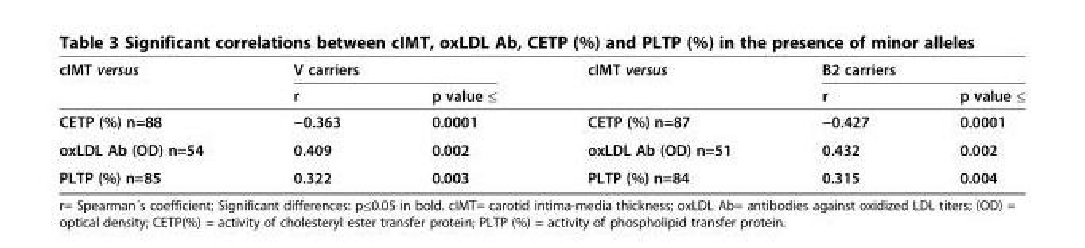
<table><thead><tr><td rowspan="2">cIMT versus</td><td colspan="2">V carriers</td><td rowspan="2">cIMT versus</td><td colspan="2">B2 carriers</td></tr><tr><td>r</td><td>p value ≤</td><td>r</td><td>p value ≤</td></tr></thead><tbody><tr><td>CETP (%) n=88</td><td>−0.363</td><td>0.0001</td><td>CETP (%) n=87</td><td>−0.427</td><td>0.0001</td></tr><tr><td>oxLDL Ab (OD) n=54</td><td>0.409</td><td>0.002</td><td>oxLDL Ab (OD) n=51</td><td>0.432</td><td>0.002</td></tr><tr><td>PLTP (%) n=85</td><td>0.322</td><td>0.003</td><td>PLTP (%) n=84</td><td>0.315</td><td>0.004</td></tr></tbody></table>